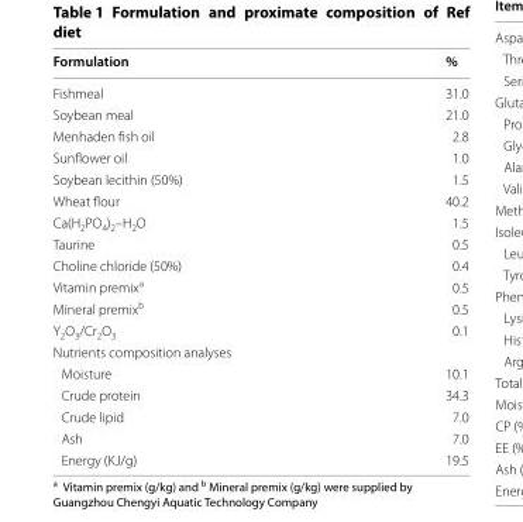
<table><thead><tr><td>Formulation</td><td>%</td></tr></thead><tbody><tr><td>Fishmeal</td><td>31.0</td></tr><tr><td>Soybean meal</td><td>21.0</td></tr><tr><td>Menhaden fish oil</td><td>2.8</td></tr><tr><td>Sunflower oil</td><td>1.0</td></tr><tr><td>Soybean lecithin (50%)</td><td>1.5</td></tr><tr><td>Wheat flour</td><td>40.2</td></tr><tr><td>Ca(H<sub>2</sub>PO<sub>4</sub>)<sub>2</sub>–H<sub>2</sub>O</td><td>1.5</td></tr><tr><td>Taurine</td><td>0.5</td></tr><tr><td>Choline chloride (50%)</td><td>0.4</td></tr><tr><td>Vitamin premix<sup>a</sup></td><td>0.5</td></tr><tr><td>Mineral premix<sup>b</sup></td><td>0.5</td></tr><tr><td>Y<sub>2</sub>O<sub>3</sub>/Cr<sub>2</sub>O<sub>3</sub></td><td>0.1</td></tr><tr><td colspan="2">Nutrients composition analyses</td></tr><tr><td>Moisture</td><td>10.1</td></tr><tr><td>Crude protein</td><td>34.3</td></tr><tr><td>Crude lipid</td><td>7.0</td></tr><tr><td>Ash</td><td>7.0</td></tr><tr><td>Energy (KJ/g)</td><td>19.5</td></tr></tbody></table>